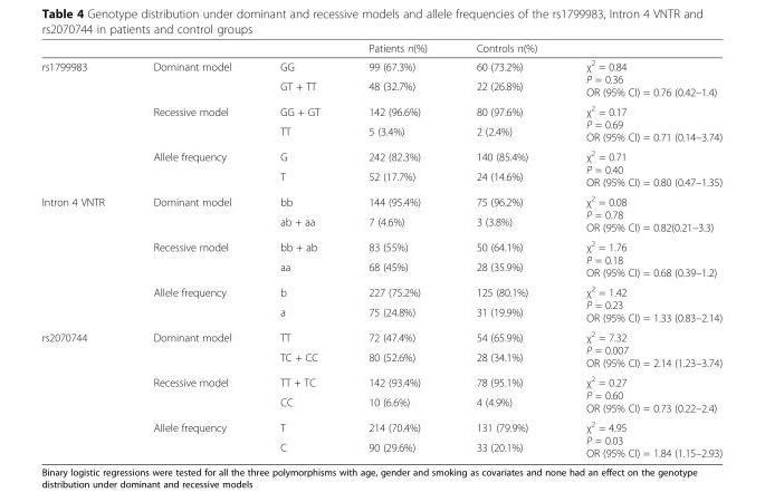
<table><thead><tr><td></td><td></td><td></td><td>Patients n(%)</td><td>Controls n(%)</td><td></td></tr></thead><tbody><tr><td rowspan="6">rs1799983</td><td rowspan="2">Dominant model</td><td>GG</td><td>99 (67.3%)</td><td>60 (73.2%)</td><td rowspan="2">χ<sup>2</sup> = 0.84 P = 0.36 OR (95% CI) = 0.76 (0.42–1.4)</td></tr><tr><td>GT + TT</td><td>48 (32.7%)</td><td>22 (26.8%)</td></tr><tr><td rowspan="2">Recessive model</td><td>GG + GT</td><td>142 (96.6%)</td><td>80 (97.6%)</td><td rowspan="2">χ<sup>2</sup> = 0.17 P = 0.69 OR (95% CI) = 0.71 (0.14–3.74)</td></tr><tr><td>TT</td><td>5 (3.4%)</td><td>2 (2.4%)</td></tr><tr><td rowspan="2">Allele frequency</td><td>G</td><td>242 (82.3%)</td><td>140 (85.4%)</td><td rowspan="2">χ<sup>2</sup> = 0.71 P = 0.40 OR (95% CI) = 0.80 (0.47–1.35)</td></tr><tr><td>T</td><td>52 (17.7%)</td><td>24 (14.6%)</td></tr><tr><td rowspan="6">Intron 4 VNTR</td><td rowspan="2">Dominant model</td><td>bb</td><td>144 (95.4%)</td><td>75 (96.2%)</td><td rowspan="2">χ<sup>2</sup> = 0.08 P = 0.78 OR (95% CI) = 0.82(0.21–3.3)</td></tr><tr><td>ab + aa</td><td>7 (4.6%)</td><td>3 (3.8%)</td></tr><tr><td rowspan="2">Recessive model</td><td>bb + ab</td><td>83 (55%)</td><td>50 (64.1%)</td><td rowspan="2">χ<sup>2</sup> = 1.76 P = 0.18 OR (95% CI) = 0.68 (0.39–1.2)</td></tr><tr><td>aa</td><td>68 (45%)</td><td>28 (35.9%)</td></tr><tr><td rowspan="2">Allele frequency</td><td>b</td><td>227 (75.2%)</td><td>125 (80.1%)</td><td rowspan="2">χ<sup>2</sup> = 1.42 P = 0.23 OR (95% CI) = 1.33 (0.83–2.14)</td></tr><tr><td>a</td><td>75 (24.8%)</td><td>31 (19.9%)</td></tr><tr><td rowspan="6">rs2070744</td><td rowspan="2">Dominant model</td><td>TT</td><td>72 (47.4%)</td><td>54 (65.9%)</td><td rowspan="2">χ<sup>2</sup> = 7.32 P = 0.007 OR (95% CI) = 2.14 (1.23–3.74)</td></tr><tr><td>TC + CC</td><td>80 (52.6%)</td><td>28 (34.1%)</td></tr><tr><td rowspan="2">Recessive model</td><td>TT + TC</td><td>142 (93.4%)</td><td>78 (95.1%)</td><td rowspan="2">χ<sup>2</sup> = 0.27 P = 0.60 OR (95% CI) = 0.73 (0.22–2.4)</td></tr><tr><td>CC</td><td>10 (6.6%)</td><td>4 (4.9%)</td></tr><tr><td rowspan="2">Allele frequency</td><td>T</td><td>214 (70.4%)</td><td>131 (79.9%)</td><td rowspan="2">χ<sup>2</sup> = 4.95 P = 0.03 OR (95% CI) = 1.84 (1.15–2.93)</td></tr><tr><td>C</td><td>90 (29.6%)</td><td>33 (20.1%)</td></tr></tbody></table>